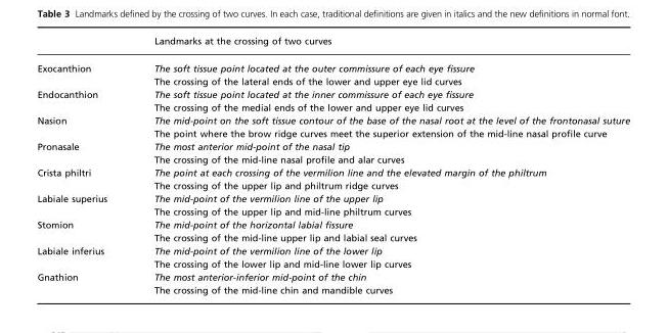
<table><thead><tr><td></td><td>Landmarks at the crossing of two curves</td></tr></thead><tbody><tr><td rowspan="2">Exocanthion</td><td>The soft tissue point located at the outer commissure of each eye fissure</td></tr><tr><td>The crossing of the lateral ends of the lower and upper eye lid curves</td></tr><tr><td rowspan="2">Endocanthion</td><td>The soft tissue point located at the inner commissure of each eye fissure</td></tr><tr><td>The crossing of the medial ends of the lower and upper eye lid curves</td></tr><tr><td rowspan="2">Nasion</td><td>The mid-point on the soft tissue contour of the base of the nasal root at the level of the frontonasal suture</td></tr><tr><td>The point where the brow ridge curves meet the superior extension of the mid-line nasal profile curve</td></tr><tr><td rowspan="2">Pronasale</td><td>The most anterior mid-point of the nasal tip</td></tr><tr><td>The crossing of the mid-line nasal profile and alar curves</td></tr><tr><td rowspan="2">Crista philtri</td><td>The point at each crossing of the vermilion line and the elevated margin of the philtrum</td></tr><tr><td>The crossing of the upper lip and philtrum ridge curves</td></tr><tr><td rowspan="2">Labiale superius</td><td>The mid-point of the vermilion line of the upper lip</td></tr><tr><td>The crossing of the upper lip and mid-line philtrum curves</td></tr><tr><td rowspan="2">Stomion</td><td>The mid-point of the horizontal labial fissure</td></tr><tr><td>The crossing of the mid-line upper lip and labial seal curves</td></tr><tr><td rowspan="2">Labiale inferius</td><td>The mid-point of the vermilion line of the lower lip</td></tr><tr><td>The crossing of the lower lip and mid-line lower lip curves</td></tr><tr><td rowspan="2">Gnathion</td><td>The most anterior-inferior mid-point of the chin</td></tr><tr><td>The crossing of the mid-line chin and mandible curves</td></tr></tbody></table>